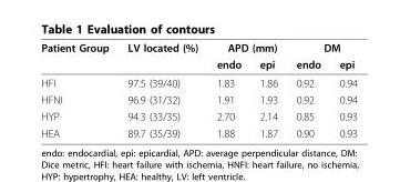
<table><thead><tr><td rowspan="2">Patient Group</td><td rowspan="2">LV located (%)</td><td colspan="2">APD (mm)</td><td colspan="2">DM</td></tr><tr><td>endo</td><td>epi</td><td>endo</td><td>epi</td></tr></thead><tbody><tr><td>HFI</td><td>97.5 (39/40)</td><td>1.83</td><td>1.86</td><td>0.92</td><td>0.94</td></tr><tr><td>HFNI</td><td>96.9 (31/32)</td><td>1.91</td><td>1.93</td><td>0.92</td><td>0.94</td></tr><tr><td>HYP</td><td>94.3 (33/35)</td><td>2.70</td><td>2.14</td><td>0.85</td><td>0.93</td></tr><tr><td>HEA</td><td>89.7 (35/39)</td><td>1.88</td><td>1.87</td><td>0.90</td><td>0.93</td></tr></tbody></table>